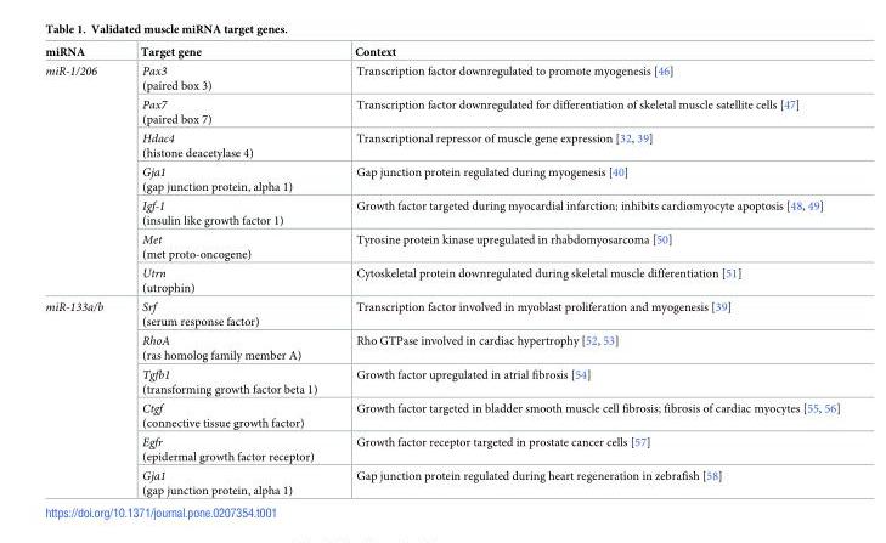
<table><thead><tr><td>miRNA</td><td>Target gene</td><td>Context</td></tr></thead><tbody><tr><td rowspan="7">miR-1/206</td><td>Pax3 (paired box 3)</td><td>Transcription factor downregulated to promote myogenesis [46]</td></tr><tr><td>Pax7 (paired box 7)</td><td>Transcription factor downregulated for differentiation of skeletal muscle satellite cells [47]</td></tr><tr><td>Hdac4 (histone deacetylase 4)</td><td>Transcriptional repressor of muscle gene expression [32, 39]</td></tr><tr><td>Gja1 (gap junction protein, alpha 1)</td><td>Gap junction protein regulated during myogenesis [40]</td></tr><tr><td>Igf-1 (insulin like growth factor 1)</td><td>Growth factor targeted during myocardial infarction; inhibits cardiomyocyte apoptosis [48, 49]</td></tr><tr><td>Met (met proto-oncogene)</td><td>Tyrosine protein kinase upregulated in rhabdomyosarcoma [50]</td></tr><tr><td>Utrn (utrophin)</td><td>Cytoskeletal protein downregulated during skeletal muscle differentiation [51]</td></tr><tr><td rowspan="6">miR-133a/b</td><td>Srf (serum response factor)</td><td>Transcription factor involved in myoblast proliferation and myogenesis [39]</td></tr><tr><td>RhoA (ras homolog family member A)</td><td>Rho GTPase involved in cardiac hypertrophy [52, 53]</td></tr><tr><td>Tgfb1 (transforming growth factor beta 1)</td><td>Growth factor upregulated in atrial fibrosis [54]</td></tr><tr><td>Ctgf (connective tissue growth factor)</td><td>Growth factor targeted in bladder smooth muscle cell fibrosis; fibrosis of cardiac myocytes [55, 56]</td></tr><tr><td>Egfr (epidermal growth factor receptor)</td><td>Growth factor receptor targeted in prostate cancer cells [57]</td></tr><tr><td>Gja1 (gap junction protein, alpha 1)</td><td>Gap junction protein regulated during heart regeneration in zebrafish [58]</td></tr></tbody></table>